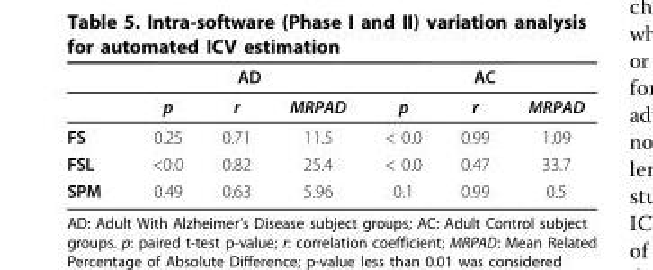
<table><thead><tr><td rowspan="2"></td><td colspan="3">AD</td><td colspan="3">AC</td></tr><tr><td>p</td><td>r</td><td>MRPAD</td><td>p</td><td>r</td><td>MRPAD</td></tr></thead><tbody><tr><td>FS</td><td>0.25</td><td>0.71</td><td>11.5</td><td>&lt; 0.0</td><td>0.99</td><td>1.09</td></tr><tr><td>FSL</td><td>&lt;0.0</td><td>0.82</td><td>25.4</td><td>&lt; 0.0</td><td>0.47</td><td>33.7</td></tr><tr><td>SPM</td><td>0.49</td><td>0.63</td><td>5.96</td><td>0.1</td><td>0.99</td><td>0.5</td></tr></tbody></table>